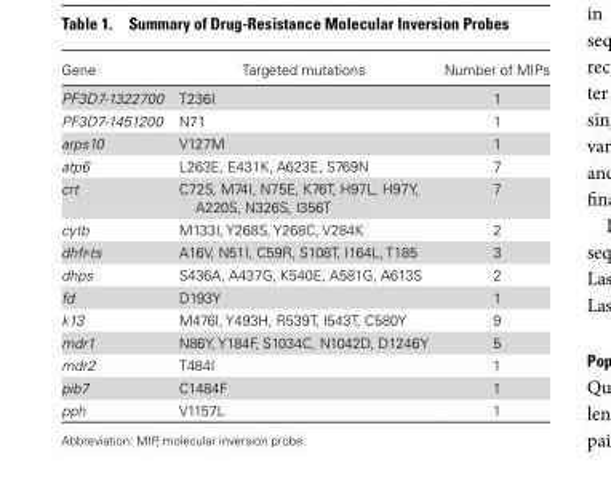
<table><thead><tr><td>Gene</td><td>Targeted mutations</td><td>Number of MIPs</td></tr></thead><tbody><tr><td>PF3D7-1322700</td><td>T236I</td><td>1</td></tr><tr><td>PF3D7-1451200</td><td>N71</td><td>1</td></tr><tr><td>arps10</td><td>V127M</td><td>1</td></tr><tr><td>atp6</td><td>L263E, E431K, A623E, S769N</td><td>7</td></tr><tr><td>crt</td><td>C72S, M74I, N75E, K76T, H97L, H97Y, A220S, N326S, I356T</td><td>7</td></tr><tr><td>cytb</td><td>M133I, Y268S, Y268C, V284K</td><td>2</td></tr><tr><td>dhfr-ts</td><td>A16V, N51I, C59R, S108T, I164L, T185</td><td>3</td></tr><tr><td>dhps</td><td>S436A, A437G, K540E, A581G, A613S</td><td>2</td></tr><tr><td>fd</td><td>D193Y</td><td>1</td></tr><tr><td>k13</td><td>M476I, Y493H, R539T, I543T, C580Y</td><td>9</td></tr><tr><td>mdr1</td><td>N86Y, Y184F, S1034C, N1042D, D1246Y</td><td>5</td></tr><tr><td>mdr2</td><td>T484I</td><td>1</td></tr><tr><td>pib7</td><td>C1484F</td><td>1</td></tr><tr><td>pph</td><td>V1157L</td><td>1</td></tr></tbody></table>